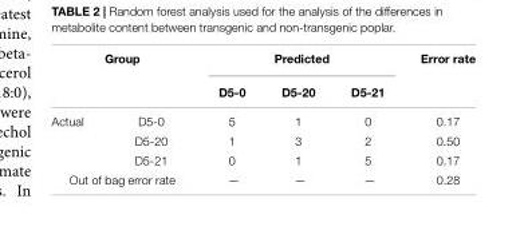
<table><thead><tr><td colspan="2">Group</td><td colspan="3">Predicted</td><td rowspan="2">Error rate</td></tr><tr><td></td><td></td><td>D5-0</td><td>D5-20</td><td>D5-21</td></tr></thead><tbody><tr><td rowspan="3">Actual</td><td>D5-0</td><td>5</td><td>1</td><td>0</td><td>0.17</td></tr><tr><td>D5-20</td><td>1</td><td>3</td><td>2</td><td>0.50</td></tr><tr><td>D5-21</td><td>0</td><td>1</td><td>5</td><td>0.17</td></tr><tr><td colspan="2">Out of bag error rate</td><td>—</td><td>—</td><td>—</td><td>0.28</td></tr></tbody></table>